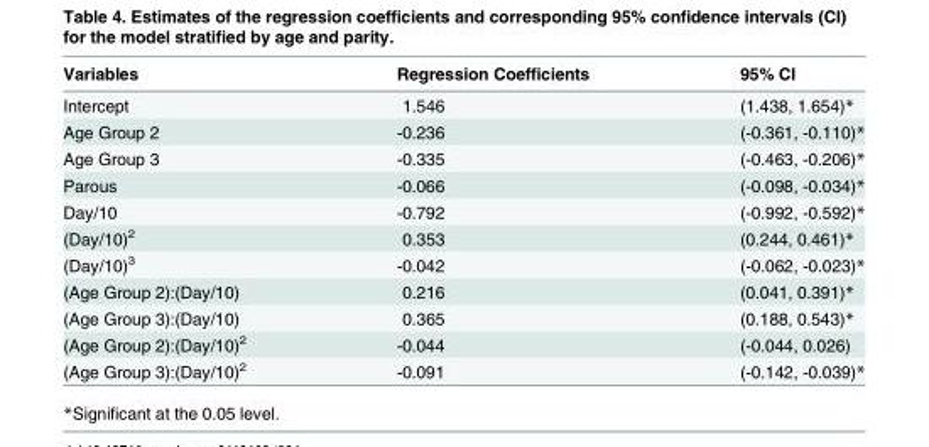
<table><thead><tr><td>Variables</td><td>Regression Coefficients</td><td>95% CI</td></tr></thead><tbody><tr><td>Intercept</td><td>1.546</td><td>(1.438, 1.654)*</td></tr><tr><td>Age Group 2</td><td>-0.236</td><td>(-0.361, -0.110)*</td></tr><tr><td>Age Group 3</td><td>-0.335</td><td>(-0.463, -0.206)*</td></tr><tr><td>Parous</td><td>-0.066</td><td>(-0.098, -0.034)*</td></tr><tr><td>Day/10</td><td>-0.792</td><td>(-0.992, -0.592)*</td></tr><tr><td>(Day/10)<sup>2</sup></td><td>0.353</td><td>(0.244, 0.461)*</td></tr><tr><td>(Day/10)<sup>3</sup></td><td>-0.042</td><td>(-0.062, -0.023)*</td></tr><tr><td>(Age Group 2):(Day/10)</td><td>0.216</td><td>(0.041, 0.391)*</td></tr><tr><td>(Age Group 3):(Day/10)</td><td>0.365</td><td>(0.188, 0.543)*</td></tr><tr><td>(Age Group 2):(Day/10)<sup>2</sup></td><td>-0.044</td><td>(-0.044, 0.026)</td></tr><tr><td>(Age Group 3):(Day/10)<sup>2</sup></td><td>-0.091</td><td>(-0.142, -0.039)*</td></tr></tbody></table>